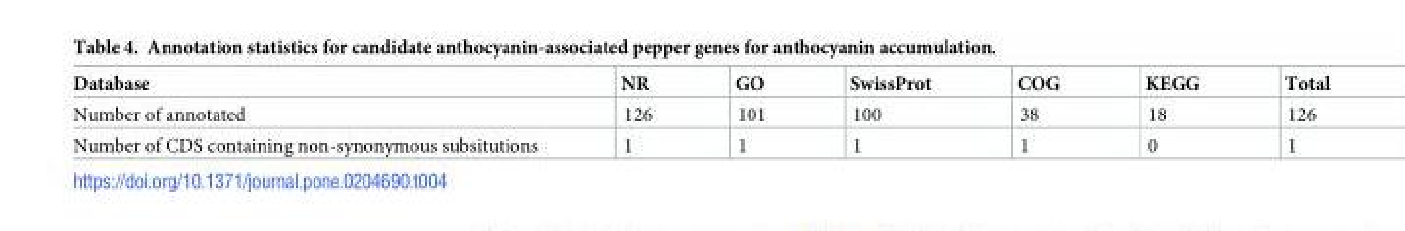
<table><thead><tr><td>Database</td><td>NR</td><td>GO</td><td>SwissProt</td><td>COG</td><td>KEGG</td><td>Total</td></tr></thead><tbody><tr><td>Number of annotated</td><td>126</td><td>101</td><td>100</td><td>38</td><td>18</td><td>126</td></tr><tr><td>Number of CDS containing non-synonymous subsitutions</td><td>1</td><td>1</td><td>1</td><td>1</td><td>0</td><td>1</td></tr></tbody></table>